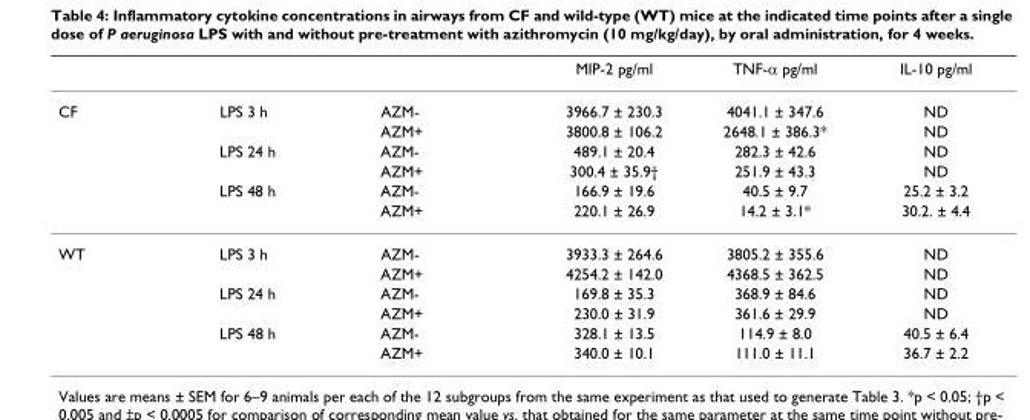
<table><thead><tr><td></td><td></td><td></td><td>MIP-2 pg/ml</td><td>TNF-α pg/ml</td><td>IL-10 pg/ml</td></tr></thead><tbody><tr><td rowspan="6">CF</td><td>LPS 3 h</td><td>AZM-</td><td>3966.7 ± 230.3</td><td>4041.1 ± 347.6</td><td>ND</td></tr><tr><td></td><td>AZM+</td><td>3800.8 ± 106.2</td><td>2648.1 ± 386.3*</td><td>ND</td></tr><tr><td>LPS 24 h</td><td>AZM-</td><td>489.1 ± 20.4</td><td>282.3 ± 42.6</td><td>ND</td></tr><tr><td></td><td>AZM+</td><td>300.4 ± 35.9†</td><td>251.9 ± 43.3</td><td>ND</td></tr><tr><td>LPS 48 h</td><td>AZM-</td><td>166.9 ± 19.6</td><td>40.5 ± 9.7</td><td>25.2 ± 3.2</td></tr><tr><td></td><td>AZM+</td><td>220.1 ± 26.9</td><td>14.2 ± 3.1*</td><td>30.2. ± 4.4</td></tr><tr><td rowspan="6">WT</td><td>LPS 3 h</td><td>AZM-</td><td>3933.3 ± 264.6</td><td>3805.2 ± 355.6</td><td>ND</td></tr><tr><td></td><td>AZM+</td><td>4254.2 ± 142.0</td><td>4368.5 ± 362.5</td><td>ND</td></tr><tr><td>LPS 24 h</td><td>AZM-</td><td>169.8 ± 35.3</td><td>368.9 ± 84.6</td><td>ND</td></tr><tr><td></td><td>AZM+</td><td>230.0 ± 31.9</td><td>361.6 ± 29.9</td><td>ND</td></tr><tr><td>LPS 48 h</td><td>AZM-</td><td>328.1 ± 13.5</td><td>114.9 ± 8.0</td><td>40.5 ± 6.4</td></tr><tr><td></td><td>AZM+</td><td>340.0 ± 10.1</td><td>111.0 ± 11.1</td><td>36.7 ± 2.2</td></tr></tbody></table>